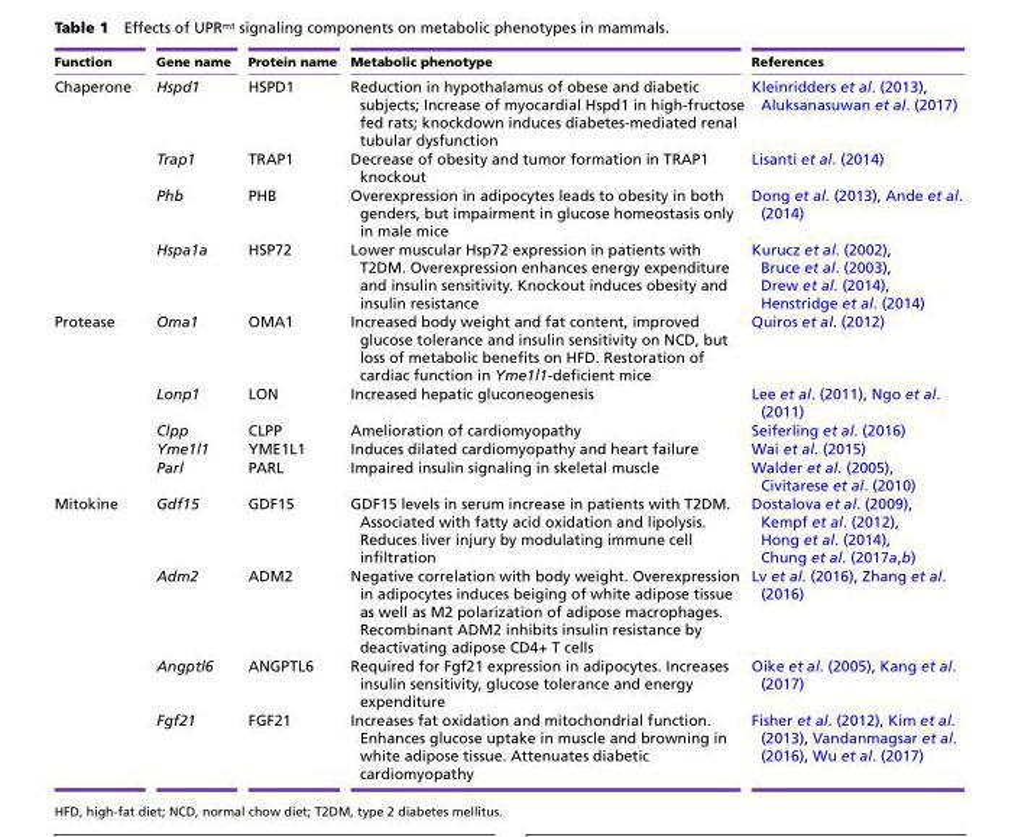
<table><thead><tr><td>Function</td><td>Gene name</td><td>Protein name</td><td>Metabolic phenotype</td><td>References</td></tr></thead><tbody><tr><td rowspan="4">Chaperone</td><td>Hspd1</td><td>HSPD1</td><td>Reduction in hypothalamus of obese and diabetic subjects; Increase of myocardial Hspd1 in high-fructose fed rats; knockdown induces diabetes-mediated renal tubular dysfunction</td><td>Kleinridders et al. (2013), Aluksanasuwan et al. (2017)</td></tr><tr><td>Trap1</td><td>TRAP1</td><td>Decrease of obesity and tumor formation in TRAP1 knockout</td><td>Lisanti et al. (2014)</td></tr><tr><td>Phb</td><td>PHB</td><td>Overexpression in adipocytes leads to obesity in both genders, but impairment in glucose homeostasis only in male mice</td><td>Dong et al. (2013), Ande et al. (2014)</td></tr><tr><td>Hspa1a</td><td>HSP72</td><td>Lower muscular Hsp72 expression in patients with T2DM. Overexpression enhances energy expenditure and insulin sensitivity. Knockout induces obesity and insulin resistance</td><td>Kurucz et al. (2002), Bruce et al. (2003), Drew et al. (2014), Henstridge et al. (2014)</td></tr><tr><td rowspan="5">Protease</td><td>Oma1</td><td>OMA1</td><td>Increased body weight and fat content, improved glucose tolerance and insulin sensitivity on NCD, but loss of metabolic benefits on HFD. Restoration of cardiac function in Yme1l1-deficient mice</td><td>Quiros et al. (2012)</td></tr><tr><td>Lonp1</td><td>LON</td><td>Increased hepatic gluconeogenesis</td><td>Lee et al. (2011), Ngo et al. (2011)</td></tr><tr><td>Clpp</td><td>CLPP</td><td>Amelioration of cardiomyopathy</td><td>Seiferling et al. (2016)</td></tr><tr><td>Yme1l1</td><td>YME1L1</td><td>Induces dilated cardiomyopathy and heart failure</td><td>Wai et al. (2015)</td></tr><tr><td>Parl</td><td>PARL</td><td>Impaired insulin signaling in skeletal muscle</td><td>Walder et al. (2005), Civitarese et al. (2010)</td></tr><tr><td rowspan="4">Mitokine</td><td>Gdf15</td><td>GDF15</td><td>GDF15 levels in serum increase in patients with T2DM. Associated with fatty acid oxidation and lipolysis. Reduces liver injury by modulating immune cell infiltration</td><td>Dostalova et al. (2009), Kempf et al. (2012), Hong et al. (2014), Chung et al. (2017a,b)</td></tr><tr><td>Adm2</td><td>ADM2</td><td>Negative correlation with body weight. Overexpression in adipocytes induces beiging of white adipose tissue as well as M2 polarization of adipose macrophages. Recombinant ADM2 inhibits insulin resistance by deactivating adipose CD4+ T cells</td><td>Lv et al. (2016), Zhang et al. (2016)</td></tr><tr><td>Angptl6</td><td>ANGPTL6</td><td>Required for Fgf21 expression in adipocytes. Increases insulin sensitivity, glucose tolerance and energy expenditure</td><td>Oike et al. (2005), Kang et al. (2017)</td></tr><tr><td>Fgf21</td><td>FGF21</td><td>Increases fat oxidation and mitochondrial function. Enhances glucose uptake in muscle and browning in white adipose tissue. Attenuates diabetic cardiomyopathy</td><td>Fisher et al. (2012), Kim et al. (2013), Vandanmagsar et al. (2016), Wu et al. (2017)</td></tr></tbody></table>